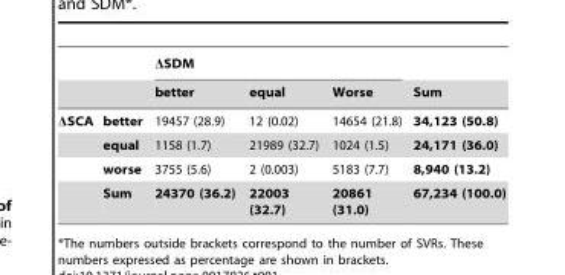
<table><thead><tr><td rowspan="2"></td><td rowspan="2"></td><td colspan="3">ΔSDM</td><td rowspan="2">Sum</td></tr><tr><td>better</td><td>equal</td><td>Worse</td></tr></thead><tbody><tr><td rowspan="4">ΔSCA</td><td>better</td><td>19457 (28.9)</td><td>12 (0.02)</td><td>14654 (21.8)</td><td>34,123 (50.8)</td></tr><tr><td>equal</td><td>1158 (1.7)</td><td>21989 (32.7)</td><td>1024 (1.5)</td><td>24,171 (36.0)</td></tr><tr><td>worse</td><td>3755 (5.6)</td><td>2 (0.003)</td><td>5183 (7.7)</td><td>8,940 (13.2)</td></tr><tr><td>Sum</td><td>24370 (36.2)</td><td>22003 (32.7)</td><td>20861 (31.0)</td><td>67,234 (100.0)</td></tr></tbody></table>